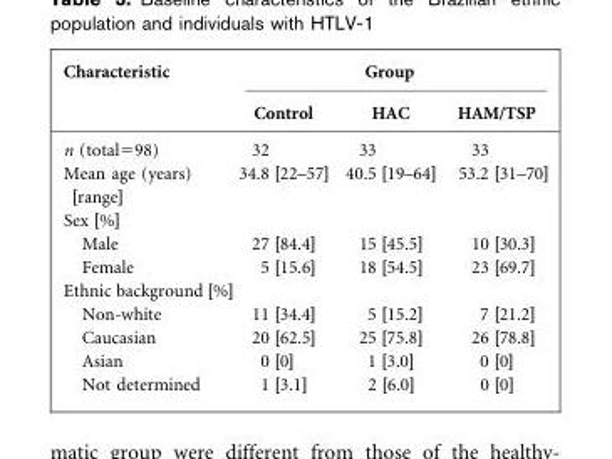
<table><thead><tr><td rowspan="2">Characteristic</td><td colspan="3">Group</td></tr><tr><td>Control</td><td>HAC</td><td>HAM/TSP</td></tr></thead><tbody><tr><td>n (total=98)</td><td>32</td><td>33</td><td>33</td></tr><tr><td>Mean age (years) [range]</td><td>34.8 [22–57]</td><td>40.5 [19–64]</td><td>53.2 [31–70]</td></tr><tr><td colspan="4">Sex [%]</td></tr><tr><td>Male</td><td>27 [84.4]</td><td>15 [45.5]</td><td>10 [30.3]</td></tr><tr><td>Female</td><td>5 [15.6]</td><td>18 [54.5]</td><td>23 [69.7]</td></tr><tr><td colspan="4">Ethnic background [%]</td></tr><tr><td>Non-white</td><td>11 [34.4]</td><td>5 [15.2]</td><td>7 [21.2]</td></tr><tr><td>Caucasian</td><td>20 [62.5]</td><td>25 [75.8]</td><td>26 [78.8]</td></tr><tr><td>Asian</td><td>0 [0]</td><td>1 [3.0]</td><td>0 [0]</td></tr><tr><td>Not determined</td><td>1 [3.1]</td><td>2 [6.0]</td><td>0 [0]</td></tr></tbody></table>